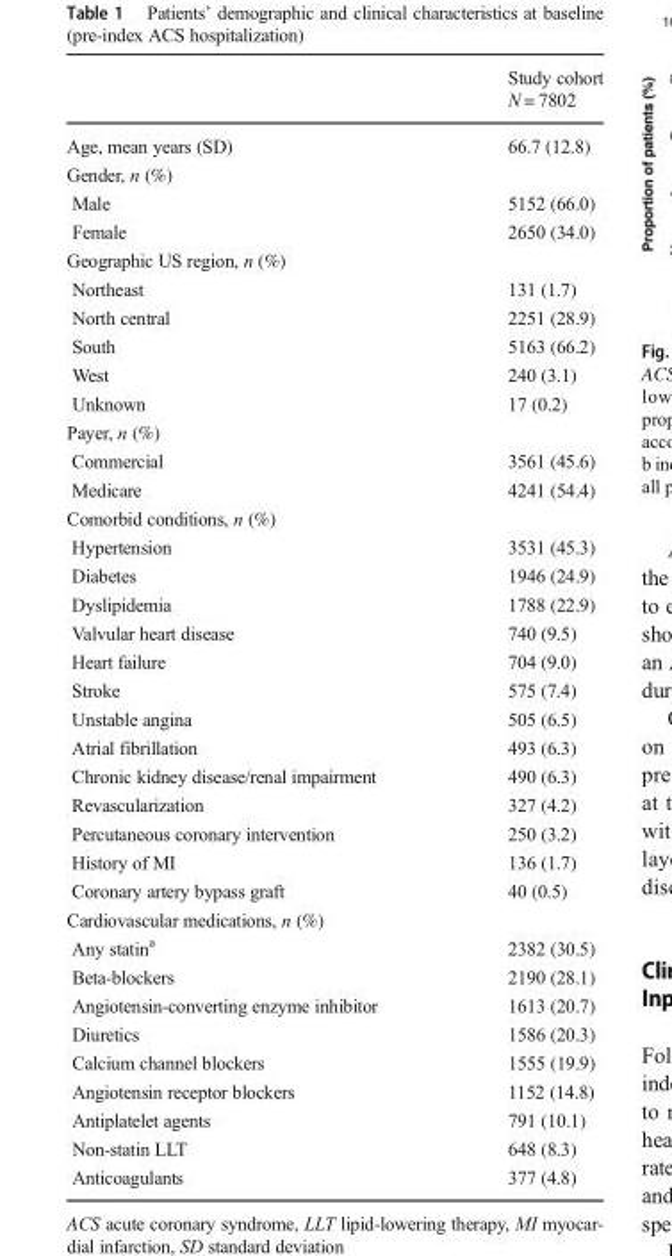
<table><thead><tr><td></td><td>Study cohort N = 7802</td></tr></thead><tbody><tr><td>Age, mean years (SD)</td><td>66.7 (12.8)</td></tr><tr><td colspan="2">Gender, n (%)</td></tr><tr><td>Male</td><td>5152 (66.0)</td></tr><tr><td>Female</td><td>2650 (34.0)</td></tr><tr><td colspan="2">Geographic US region, n (%)</td></tr><tr><td>Northeast</td><td>131 (1.7)</td></tr><tr><td>North central</td><td>2251 (28.9)</td></tr><tr><td>South</td><td>5163 (66.2)</td></tr><tr><td>West</td><td>240 (3.1)</td></tr><tr><td>Unknown</td><td>17 (0.2)</td></tr><tr><td colspan="2">Payer, n (%)</td></tr><tr><td>Commercial</td><td>3561 (45.6)</td></tr><tr><td>Medicare</td><td>4241 (54.4)</td></tr><tr><td colspan="2">Comorbid conditions, n (%)</td></tr><tr><td>Hypertension</td><td>3531 (45.3)</td></tr><tr><td>Diabetes</td><td>1946 (24.9)</td></tr><tr><td>Dyslipidemia</td><td>1788 (22.9)</td></tr><tr><td>Valvular heart disease</td><td>740 (9.5)</td></tr><tr><td>Heart failure</td><td>704 (9.0)</td></tr><tr><td>Stroke</td><td>575 (7.4)</td></tr><tr><td>Unstable angina</td><td>505 (6.5)</td></tr><tr><td>Atrial fibrillation</td><td>493 (6.3)</td></tr><tr><td>Chronic kidney disease/renal impairment</td><td>490 (6.3)</td></tr><tr><td>Revascularization</td><td>327 (4.2)</td></tr><tr><td>Percutaneous coronary intervention</td><td>250 (3.2)</td></tr><tr><td>History of MI</td><td>136 (1.7)</td></tr><tr><td>Coronary artery bypass graft</td><td>40 (0.5)</td></tr><tr><td colspan="2">Cardiovascular medications, n (%)</td></tr><tr><td>Any statin<sup>a</sup></td><td>2382 (30.5)</td></tr><tr><td>Beta-blockers</td><td>2190 (28.1)</td></tr><tr><td>Angiotensin-converting enzyme inhibitor</td><td>1613 (20.7)</td></tr><tr><td>Diuretics</td><td>1586 (20.3)</td></tr><tr><td>Calcium channel blockers</td><td>1555 (19.9)</td></tr><tr><td>Angiotensin receptor blockers</td><td>1152 (14.8)</td></tr><tr><td>Antiplatelet agents</td><td>791 (10.1)</td></tr><tr><td>Non-statin LLT</td><td>648 (8.3)</td></tr><tr><td>Anticoagulants</td><td>377 (4.8)</td></tr></tbody></table>